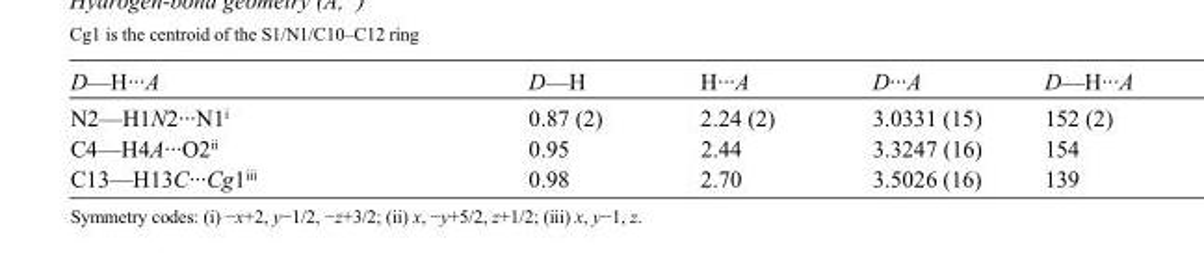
<table><tbody><tr><td>D—H···A</td><td>D—H</td><td>H···A</td><td>D···A</td><td>D—H···A</td></tr><tr><td>N2—H1N2···N1<sup>i</sup></td><td>0.87 (2)</td><td>2.24 (2)</td><td>3.0331 (15)</td><td>152 (2)</td></tr><tr><td>C4—H4A···O2<sup>ii</sup></td><td>0.95</td><td>2.44</td><td>3.3247 (16)</td><td>154</td></tr><tr><td>C13—H13C···Cg1<sup>iii</sup></td><td>0.98</td><td>2.70</td><td>3.5026 (16)</td><td>139</td></tr></tbody></table>